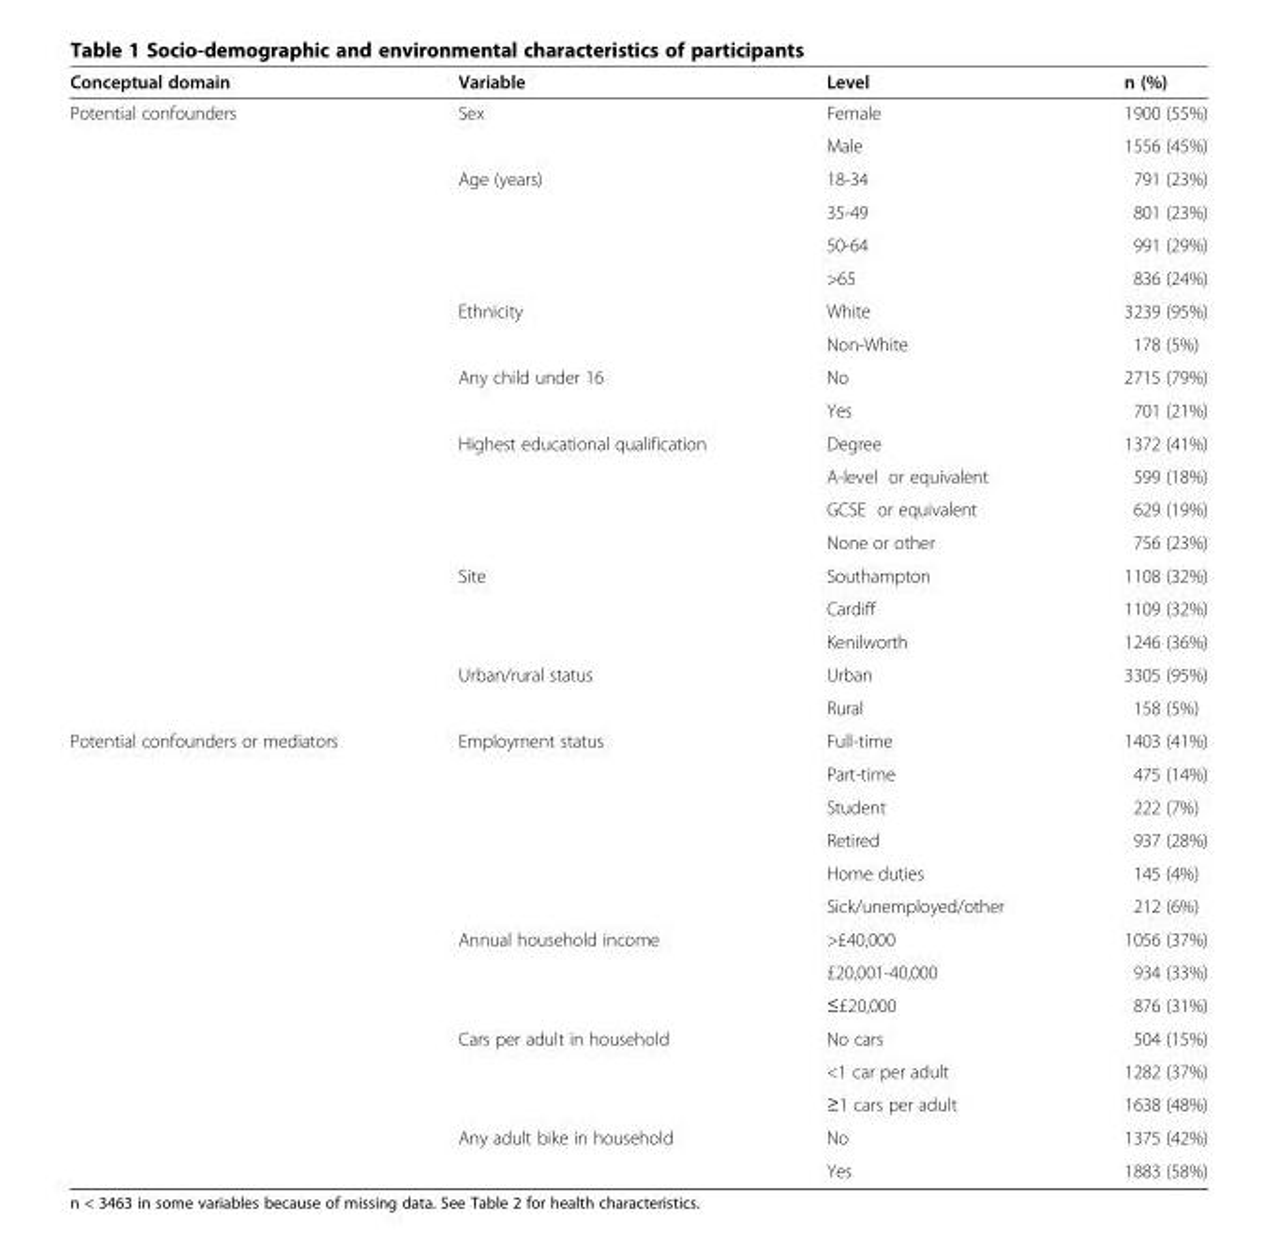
<table><thead><tr><td>Conceptual domain</td><td>Variable</td><td>Level</td><td>n (%)</td></tr></thead><tbody><tr><td rowspan="19">Potential confounders</td><td>Sex</td><td>Female</td><td>1900 (55%)</td></tr><tr><td></td><td>Male</td><td>1556 (45%)</td></tr><tr><td>Age (years)</td><td>18-34</td><td>791 (23%)</td></tr><tr><td></td><td>35-49</td><td>801 (23%)</td></tr><tr><td></td><td>50-64</td><td>991 (29%)</td></tr><tr><td></td><td>&gt;65</td><td>836 (24%)</td></tr><tr><td>Ethnicity</td><td>White</td><td>3239 (95%)</td></tr><tr><td></td><td>Non-White</td><td>178 (5%)</td></tr><tr><td>Any child under 16</td><td>No</td><td>2715 (79%)</td></tr><tr><td></td><td>Yes</td><td>701 (21%)</td></tr><tr><td>Highest educational qualification</td><td>Degree</td><td>1372 (41%)</td></tr><tr><td></td><td>A-level or equivalent</td><td>599 (18%)</td></tr><tr><td></td><td>GCSE or equivalent</td><td>629 (19%)</td></tr><tr><td></td><td>None or other</td><td>756 (23%)</td></tr><tr><td>Site</td><td>Southampton</td><td>1108 (32%)</td></tr><tr><td></td><td>Cardiff</td><td>1109 (32%)</td></tr><tr><td></td><td>Kenilworth</td><td>1246 (36%)</td></tr><tr><td>Urban/rural status</td><td>Urban</td><td>3305 (95%)</td></tr><tr><td></td><td>Rural</td><td>158 (5%)</td></tr><tr><td rowspan="14">Potential confounders or mediators</td><td>Employment status</td><td>Full-time</td><td>1403 (41%)</td></tr><tr><td></td><td>Part-time</td><td>475 (14%)</td></tr><tr><td></td><td>Student</td><td>222 (7%)</td></tr><tr><td></td><td>Retired</td><td>937 (28%)</td></tr><tr><td></td><td>Home duties</td><td>145 (4%)</td></tr><tr><td></td><td>Sick/unemployed/other</td><td>212 (6%)</td></tr><tr><td>Annual household income</td><td>&gt;£40,000</td><td>1056 (37%)</td></tr><tr><td></td><td>£20,001-40,000</td><td>934 (33%)</td></tr><tr><td></td><td>≤£20,000</td><td>876 (31%)</td></tr><tr><td>Cars per adult in household</td><td>No cars</td><td>504 (15%)</td></tr><tr><td></td><td>&lt;1 car per adult</td><td>1282 (37%)</td></tr><tr><td></td><td>≥1 cars per adult</td><td>1638 (48%)</td></tr><tr><td>Any adult bike in household</td><td>No</td><td>1375 (42%)</td></tr><tr><td></td><td>Yes</td><td>1883 (58%)</td></tr></tbody></table>